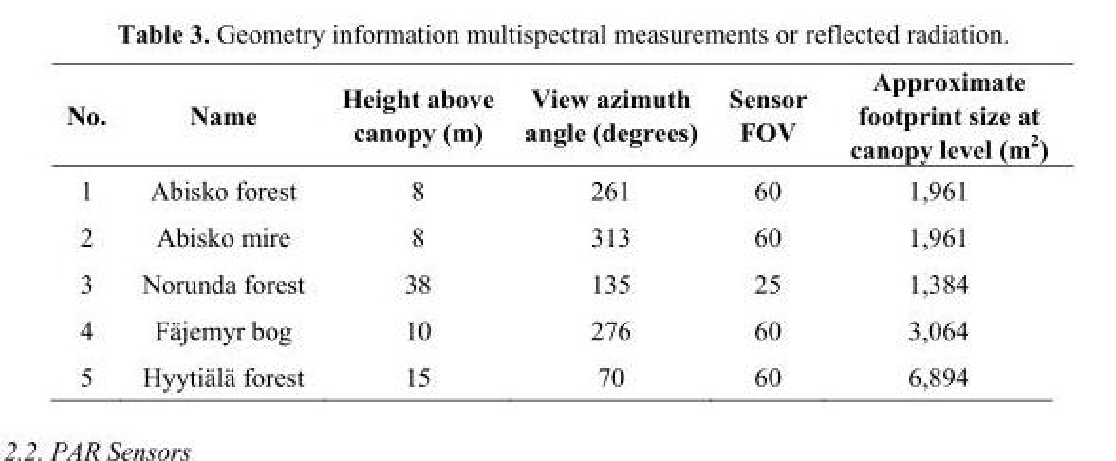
<table><thead><tr><td>No.</td><td>Name</td><td>Height above canopy (m)</td><td>View azimuth angle (degrees)</td><td>Sensor FOV</td><td>Approximate footprint size at canopy level (m<sup>2</sup>)</td></tr></thead><tbody><tr><td>1</td><td>Abisko forest</td><td>8</td><td>261</td><td>60</td><td>1,961</td></tr><tr><td>2</td><td>Abisko mire</td><td>8</td><td>313</td><td>60</td><td>1,961</td></tr><tr><td>3</td><td>Norunda forest</td><td>38</td><td>135</td><td>25</td><td>1,384</td></tr><tr><td>4</td><td>Fäjemyr bog</td><td>10</td><td>276</td><td>60</td><td>3,064</td></tr><tr><td>5</td><td>Hyytiälä forest</td><td>15</td><td>70</td><td>60</td><td>6,894</td></tr></tbody></table>